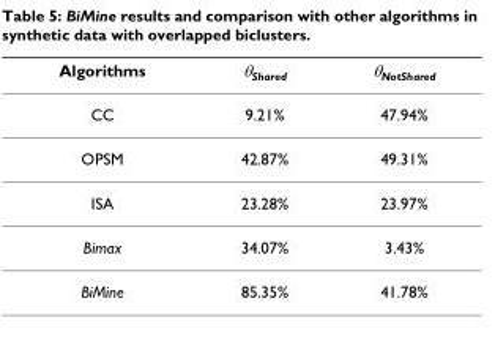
<table><thead><tr><td>Algorithms</td><td>θ<sub>Shared</sub></td><td>θ<sub>NotShared</sub></td></tr></thead><tbody><tr><td>CC</td><td>9.21%</td><td>47.94%</td></tr><tr><td>OPSM</td><td>42.87%</td><td>49.31%</td></tr><tr><td>ISA</td><td>23.28%</td><td>23.97%</td></tr><tr><td>Bimax</td><td>34.07%</td><td>3.43%</td></tr><tr><td>BiMine</td><td>85.35%</td><td>41.78%</td></tr></tbody></table>